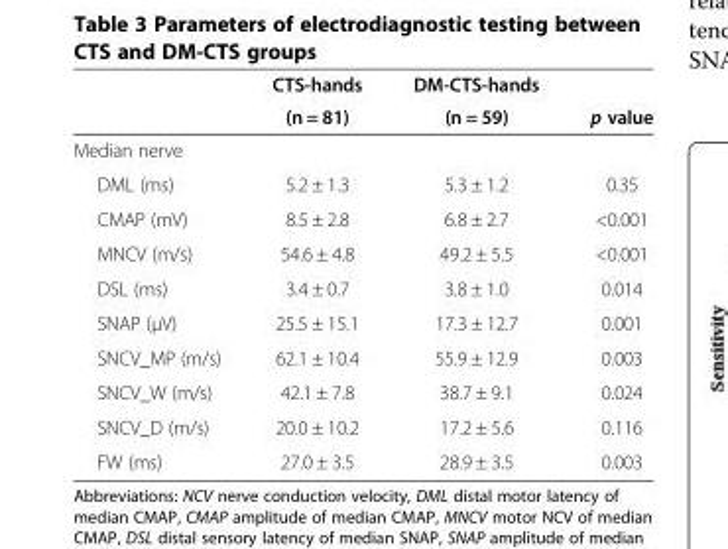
<table><thead><tr><td rowspan="2"></td><td rowspan="2">CTS-hands (n = 81)</td><td rowspan="2">DM-CTS-hands (n = 59)</td><td rowspan="2">p value</td></tr><tr></tr></thead><tbody><tr><td colspan="4">Median nerve</td></tr><tr><td>DML (ms)</td><td>5.2 ± 1.3</td><td>5.3 ± 1.2</td><td>0.35</td></tr><tr><td>CMAP (mV)</td><td>8.5 ± 2.8</td><td>6.8 ± 2.7</td><td>&lt;0.001</td></tr><tr><td>MNCV (m/s)</td><td>54.6 ± 4.8</td><td>49.2 ± 5.5</td><td>&lt;0.001</td></tr><tr><td>DSL (ms)</td><td>3.4 ± 0.7</td><td>3.8 ± 1.0</td><td>0.014</td></tr><tr><td>SNAP (μV)</td><td>25.5 ± 15.1</td><td>17.3 ± 12.7</td><td>0.001</td></tr><tr><td>SNCV_MP (m/s)</td><td>62.1 ± 10.4</td><td>55.9 ± 12.9</td><td>0.003</td></tr><tr><td>SNCV_W (m/s)</td><td>42.1 ± 7.8</td><td>38.7 ± 9.1</td><td>0.024</td></tr><tr><td>SNCV_D (m/s)</td><td>20.0 ± 10.2</td><td>17.2 ± 5.6</td><td>0.116</td></tr><tr><td>FW (ms)</td><td>27.0 ± 3.5</td><td>28.9 ± 3.5</td><td>0.003</td></tr></tbody></table>